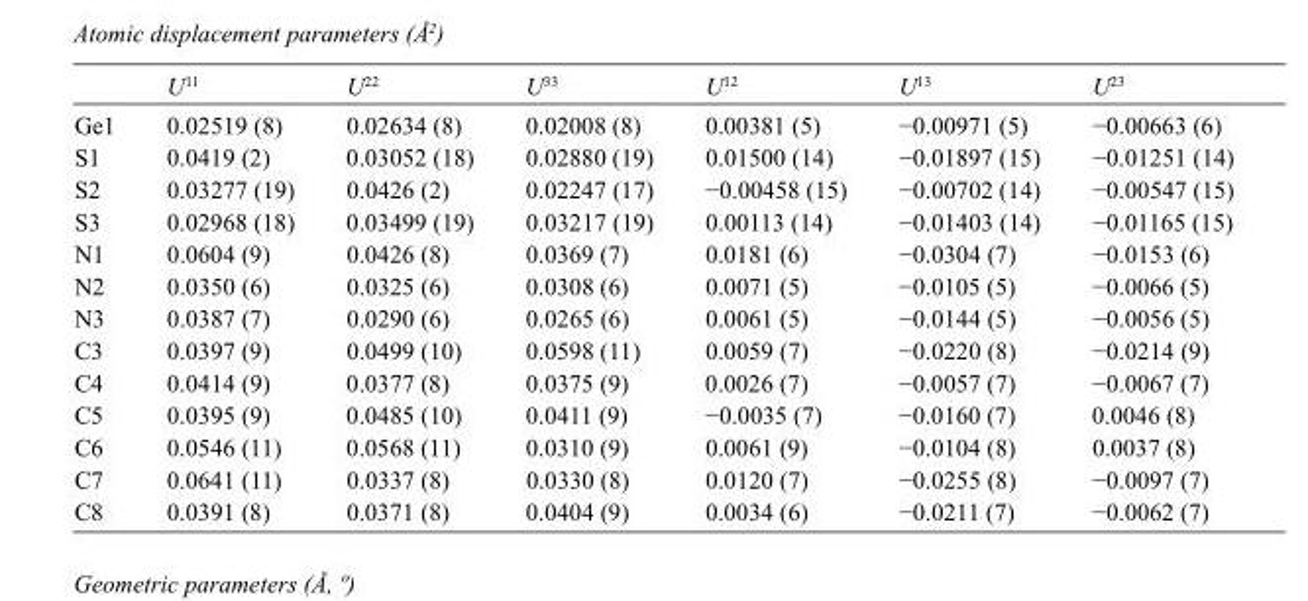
<table><thead><tr><td></td><td>U<sup>11</sup></td><td>U<sup>22</sup></td><td>U<sup>33</sup></td><td>U<sup>12</sup></td><td>U<sup>13</sup></td><td>U<sup>23</sup></td></tr></thead><tbody><tr><td>Ge1</td><td>0.02519 (8)</td><td>0.02634 (8)</td><td>0.02008 (8)</td><td>0.00381 (5)</td><td>−0.00971 (5)</td><td>−0.00663 (6)</td></tr><tr><td>S1</td><td>0.0419 (2)</td><td>0.03052 (18)</td><td>0.02880 (19)</td><td>0.01500 (14)</td><td>−0.01897 (15)</td><td>−0.01251 (14)</td></tr><tr><td>S2</td><td>0.03277 (19)</td><td>0.0426 (2)</td><td>0.02247 (17)</td><td>−0.00458 (15)</td><td>−0.00702 (14)</td><td>−0.00547 (15)</td></tr><tr><td>S3</td><td>0.02968 (18)</td><td>0.03499 (19)</td><td>0.03217 (19)</td><td>0.00113 (14)</td><td>−0.01403 (14)</td><td>−0.01165 (15)</td></tr><tr><td>N1</td><td>0.0604 (9)</td><td>0.0426 (8)</td><td>0.0369 (7)</td><td>0.0181 (6)</td><td>−0.0304 (7)</td><td>−0.0153 (6)</td></tr><tr><td>N2</td><td>0.0350 (6)</td><td>0.0325 (6)</td><td>0.0308 (6)</td><td>0.0071 (5)</td><td>−0.0105 (5)</td><td>−0.0066 (5)</td></tr><tr><td>N3</td><td>0.0387 (7)</td><td>0.0290 (6)</td><td>0.0265 (6)</td><td>0.0061 (5)</td><td>−0.0144 (5)</td><td>−0.0056 (5)</td></tr><tr><td>C3</td><td>0.0397 (9)</td><td>0.0499 (10)</td><td>0.0598 (11)</td><td>0.0059 (7)</td><td>−0.0220 (8)</td><td>−0.0214 (9)</td></tr><tr><td>C4</td><td>0.0414 (9)</td><td>0.0377 (8)</td><td>0.0375 (9)</td><td>0.0026 (7)</td><td>−0.0057 (7)</td><td>−0.0067 (7)</td></tr><tr><td>C5</td><td>0.0395 (9)</td><td>0.0485 (10)</td><td>0.0411 (9)</td><td>−0.0035 (7)</td><td>−0.0160 (7)</td><td>0.0046 (8)</td></tr><tr><td>C6</td><td>0.0546 (11)</td><td>0.0568 (11)</td><td>0.0310 (9)</td><td>0.0061 (9)</td><td>−0.0104 (8)</td><td>0.0037 (8)</td></tr><tr><td>C7</td><td>0.0641 (11)</td><td>0.0337 (8)</td><td>0.0330 (8)</td><td>0.0120 (7)</td><td>−0.0255 (8)</td><td>−0.0097 (7)</td></tr><tr><td>C8</td><td>0.0391 (8)</td><td>0.0371 (8)</td><td>0.0404 (9)</td><td>0.0034 (6)</td><td>−0.0211 (7)</td><td>−0.0062 (7)</td></tr></tbody></table>